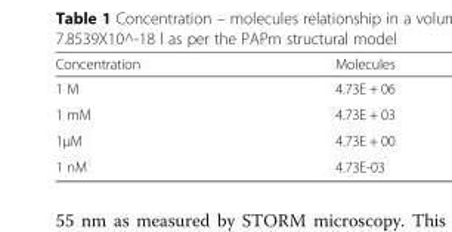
<table><thead><tr><td>Concentration</td><td>Molecules</td></tr></thead><tbody><tr><td>1 M</td><td>4.73E + 06</td></tr><tr><td>1 mM</td><td>4.73E + 03</td></tr><tr><td>1μM</td><td>4.73E + 00</td></tr><tr><td>1 nM</td><td>4.73E-03</td></tr></tbody></table>